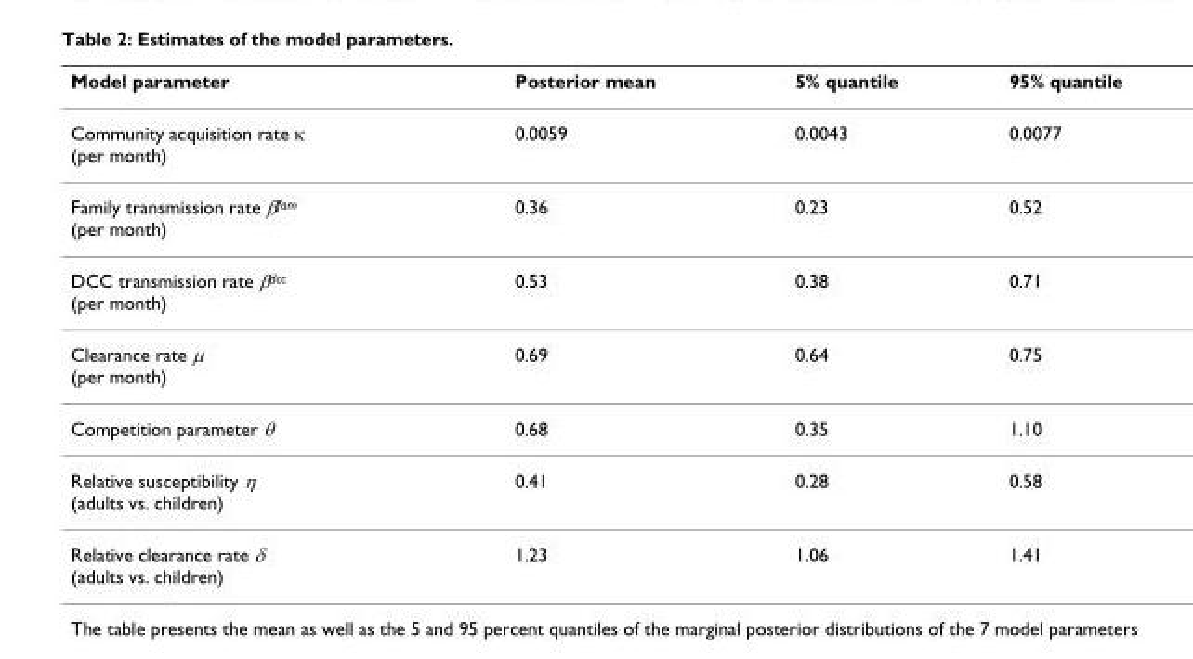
<table><thead><tr><td>Model parameter</td><td>Posterior mean</td><td>5% quantile</td><td>95% quantile</td></tr></thead><tbody><tr><td>Community acquisition rate κ (per month)</td><td>0.0059</td><td>0.0043</td><td>0.0077</td></tr><tr><td>Family transmission rate β<sup>fam</sup> (per month)</td><td>0.36</td><td>0.23</td><td>0.52</td></tr><tr><td>DCC transmission rate β<sup>dcc</sup> (per month)</td><td>0.53</td><td>0.38</td><td>0.71</td></tr><tr><td>Clearance rate μ (per month)</td><td>0.69</td><td>0.64</td><td>0.75</td></tr><tr><td>Competition parameter θ</td><td>0.68</td><td>0.35</td><td>1.10</td></tr><tr><td>Relative susceptibility η (adults vs. children)</td><td>0.41</td><td>0.28</td><td>0.58</td></tr><tr><td>Relative clearance rate δ (adults vs. children)</td><td>1.23</td><td>1.06</td><td>1.41</td></tr></tbody></table>